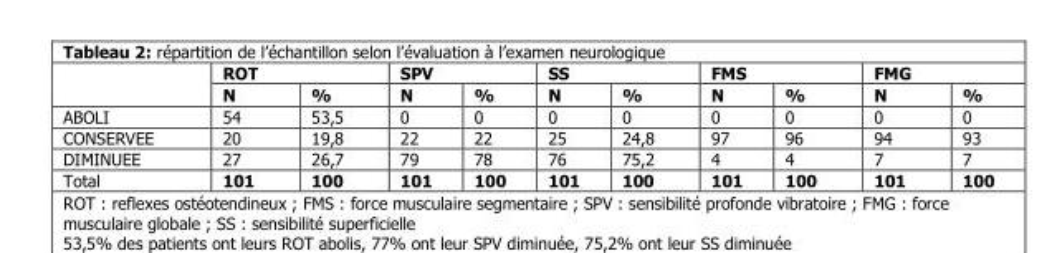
<table><thead><tr><td rowspan="2"></td><td colspan="2">ROT</td><td colspan="2">SPV</td><td colspan="2">SS</td><td colspan="2">FMS</td><td colspan="2">FMG</td></tr><tr><td>N</td><td>%</td><td>N</td><td>%</td><td>N</td><td>%</td><td>N</td><td>%</td><td>N</td><td>%</td></tr></thead><tbody><tr><td>ABOLI</td><td>54</td><td>53,5</td><td>0</td><td>0</td><td>0</td><td>0</td><td>0</td><td>0</td><td>0</td><td>0</td></tr><tr><td>CONSERVEE</td><td>20</td><td>19,8</td><td>22</td><td>22</td><td>25</td><td>24,8</td><td>97</td><td>96</td><td>94</td><td>93</td></tr><tr><td>DIMINUEE</td><td>27</td><td>26,7</td><td>79</td><td>78</td><td>76</td><td>75,2</td><td>4</td><td>4</td><td>7</td><td>7</td></tr><tr><td>Total</td><td>101</td><td>100</td><td>101</td><td>100</td><td>101</td><td>100</td><td>101</td><td>100</td><td>101</td><td>100</td></tr></tbody></table>